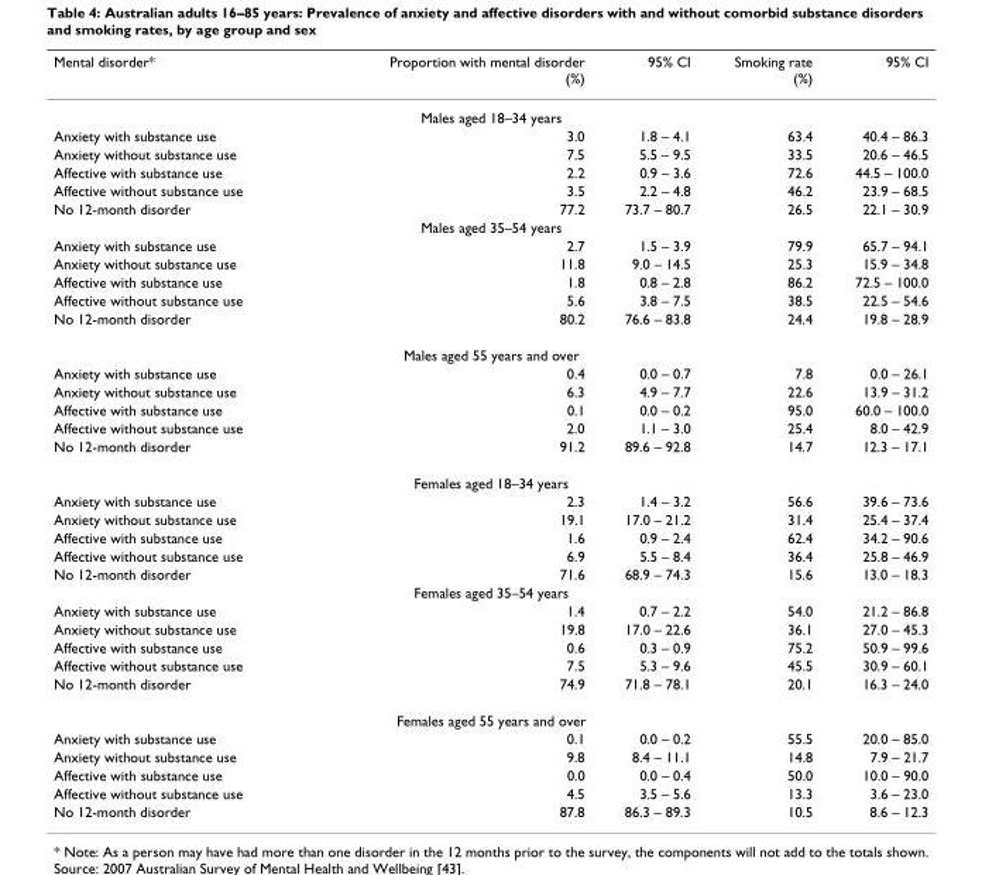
<table><thead><tr><td>Mental disorder*</td><td>Proportion with mental disorder (%)</td><td>95% CI</td><td>Smoking rate (%)</td><td>95% CI</td></tr></thead><tbody><tr><td colspan="5">Males aged 18–34 years</td></tr><tr><td>Anxiety with substance use</td><td>3.0</td><td>1.8 – 4.1</td><td>63.4</td><td>40.4 – 86.3</td></tr><tr><td>Anxiety without substance use</td><td>7.5</td><td>5.5 – 9.5</td><td>33.5</td><td>20.6 – 46.5</td></tr><tr><td>Affective with substance use</td><td>2.2</td><td>0.9 – 3.6</td><td>72.6</td><td>44.5 – 100.0</td></tr><tr><td>Affective without substance use</td><td>3.5</td><td>2.2 – 4.8</td><td>46.2</td><td>23.9 – 68.5</td></tr><tr><td>No 12-month disorder</td><td>77.2</td><td>73.7 – 80.7</td><td>26.5</td><td>22.1 – 30.9</td></tr><tr><td colspan="5">Males aged 35–54 years</td></tr><tr><td>Anxiety with substance use</td><td>2.7</td><td>1.5 – 3.9</td><td>79.9</td><td>65.7 – 94.1</td></tr><tr><td>Anxiety without substance use</td><td>11.8</td><td>9.0 – 14.5</td><td>25.3</td><td>15.9 – 34.8</td></tr><tr><td>Affective with substance use</td><td>1.8</td><td>0.8 – 2.8</td><td>86.2</td><td>72.5 – 100.0</td></tr><tr><td>Affective without substance use</td><td>5.6</td><td>3.8 – 7.5</td><td>38.5</td><td>22.5 – 54.6</td></tr><tr><td>No 12-month disorder</td><td>80.2</td><td>76.6 – 83.8</td><td>24.4</td><td>19.8 – 28.9</td></tr><tr><td colspan="5">Males aged 55 years and over</td></tr><tr><td>Anxiety with substance use</td><td>0.4</td><td>0.0 – 0.7</td><td>7.8</td><td>0.0 – 26.1</td></tr><tr><td>Anxiety without substance use</td><td>6.3</td><td>4.9 – 7.7</td><td>22.6</td><td>13.9 – 31.2</td></tr><tr><td>Affective with substance use</td><td>0.1</td><td>0.0 – 0.2</td><td>95.0</td><td>60.0 – 100.0</td></tr><tr><td>Affective without substance use</td><td>2.0</td><td>1.1 – 3.0</td><td>25.4</td><td>8.0 – 42.9</td></tr><tr><td>No 12-month disorder</td><td>91.2</td><td>89.6 – 92.8</td><td>14.7</td><td>12.3 – 17.1</td></tr><tr><td colspan="5">Females aged 18–34 years</td></tr><tr><td>Anxiety with substance use</td><td>2.3</td><td>1.4 – 3.2</td><td>56.6</td><td>39.6 – 73.6</td></tr><tr><td>Anxiety without substance use</td><td>19.1</td><td>17.0 – 21.2</td><td>31.4</td><td>25.4 – 37.4</td></tr><tr><td>Affective with substance use</td><td>1.6</td><td>0.9 – 2.4</td><td>62.4</td><td>34.2 – 90.6</td></tr><tr><td>Affective without substance use</td><td>6.9</td><td>5.5 – 8.4</td><td>36.4</td><td>25.8 – 46.9</td></tr><tr><td>No 12-month disorder</td><td>71.6</td><td>68.9 – 74.3</td><td>15.6</td><td>13.0 – 18.3</td></tr><tr><td colspan="5">Females aged 35–54 years</td></tr><tr><td>Anxiety with substance use</td><td>1.4</td><td>0.7 – 2.2</td><td>54.0</td><td>21.2 – 86.8</td></tr><tr><td>Anxiety without substance use</td><td>19.8</td><td>17.0 – 22.6</td><td>36.1</td><td>27.0 – 45.3</td></tr><tr><td>Affective with substance use</td><td>0.6</td><td>0.3 – 0.9</td><td>75.2</td><td>50.9 – 99.6</td></tr><tr><td>Affective without substance use</td><td>7.5</td><td>5.3 – 9.6</td><td>45.5</td><td>30.9 – 60.1</td></tr><tr><td>No 12-month disorder</td><td>74.9</td><td>71.8 – 78.1</td><td>20.1</td><td>16.3 – 24.0</td></tr><tr><td colspan="5">Females aged 55 years and over</td></tr><tr><td>Anxiety with substance use</td><td>0.1</td><td>0.0 – 0.2</td><td>55.5</td><td>20.0 – 85.0</td></tr><tr><td>Anxiety without substance use</td><td>9.8</td><td>8.4 – 11.1</td><td>14.8</td><td>7.9 – 21.7</td></tr><tr><td>Affective with substance use</td><td>0.0</td><td>0.0 – 0.4</td><td>50.0</td><td>10.0 – 90.0</td></tr><tr><td>Affective without substance use</td><td>4.5</td><td>3.5 – 5.6</td><td>13.3</td><td>3.6 – 23.0</td></tr><tr><td>No 12-month disorder</td><td>87.8</td><td>86.3 – 89.3</td><td>10.5</td><td>8.6 – 12.3</td></tr></tbody></table>